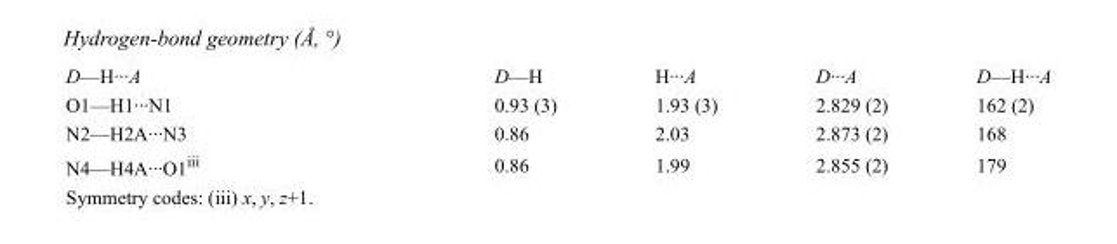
<table><tbody><tr><td>D—H···A</td><td>D—H</td><td>H···A</td><td>D···A</td><td>D—H···A</td></tr><tr><td>O1—H1···N1</td><td>0.93 (3)</td><td>1.93 (3)</td><td>2.829 (2)</td><td>162 (2)</td></tr><tr><td>N2—H2A···N3</td><td>0.86</td><td>2.03</td><td>2.873 (2)</td><td>168</td></tr><tr><td>N4—H4A···O1<sup>iii</sup></td><td>0.86</td><td>1.99</td><td>2.855 (2)</td><td>179</td></tr></tbody></table>